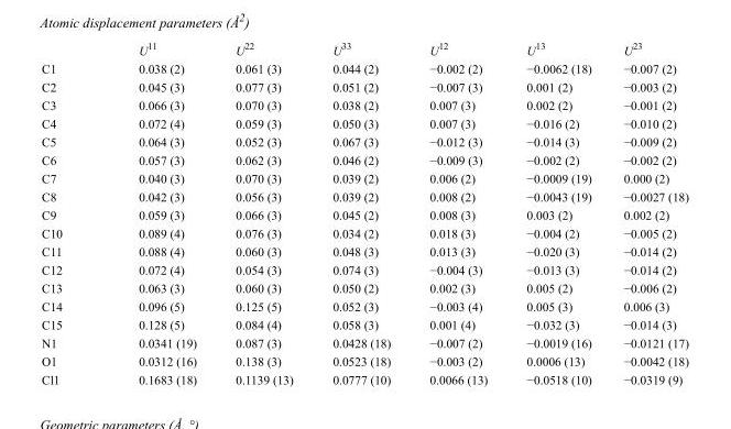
<table><thead><tr><td></td><td>U<sup>11</sup></td><td>U<sup>22</sup></td><td>U<sup>33</sup></td><td>U<sup>12</sup></td><td>U<sup>13</sup></td><td>U<sup>23</sup></td></tr></thead><tbody><tr><td>C1</td><td>0.038 (2)</td><td>0.061 (3)</td><td>0.044 (2)</td><td>−0.002 (2)</td><td>−0.0062 (18)</td><td>−0.007 (2)</td></tr><tr><td>C2</td><td>0.045 (3)</td><td>0.077 (3)</td><td>0.051 (2)</td><td>−0.007 (3)</td><td>0.001 (2)</td><td>−0.003 (2)</td></tr><tr><td>C3</td><td>0.066 (3)</td><td>0.070 (3)</td><td>0.038 (2)</td><td>0.007 (3)</td><td>0.002 (2)</td><td>−0.001 (2)</td></tr><tr><td>C4</td><td>0.072 (4)</td><td>0.059 (3)</td><td>0.050 (3)</td><td>0.007 (3)</td><td>−0.016 (2)</td><td>−0.010 (2)</td></tr><tr><td>C5</td><td>0.064 (3)</td><td>0.052 (3)</td><td>0.067 (3)</td><td>−0.012 (3)</td><td>−0.014 (3)</td><td>−0.009 (2)</td></tr><tr><td>C6</td><td>0.057 (3)</td><td>0.062 (3)</td><td>0.046 (2)</td><td>−0.009 (3)</td><td>−0.002 (2)</td><td>−0.002 (2)</td></tr><tr><td>C7</td><td>0.040 (3)</td><td>0.070 (3)</td><td>0.039 (2)</td><td>0.006 (2)</td><td>−0.0009 (19)</td><td>0.000 (2)</td></tr><tr><td>C8</td><td>0.042 (3)</td><td>0.056 (3)</td><td>0.039 (2)</td><td>0.008 (2)</td><td>−0.0043 (19)</td><td>−0.0027 (18)</td></tr><tr><td>C9</td><td>0.059 (3)</td><td>0.066 (3)</td><td>0.045 (2)</td><td>0.008 (3)</td><td>0.003 (2)</td><td>0.002 (2)</td></tr><tr><td>C10</td><td>0.089 (4)</td><td>0.076 (3)</td><td>0.034 (2)</td><td>0.018 (3)</td><td>−0.004 (2)</td><td>−0.005 (2)</td></tr><tr><td>C11</td><td>0.088 (4)</td><td>0.060 (3)</td><td>0.048 (3)</td><td>0.013 (3)</td><td>−0.020 (3)</td><td>−0.014 (2)</td></tr><tr><td>C12</td><td>0.072 (4)</td><td>0.054 (3)</td><td>0.074 (3)</td><td>−0.004 (3)</td><td>−0.013 (3)</td><td>−0.014 (2)</td></tr><tr><td>C13</td><td>0.063 (3)</td><td>0.060 (3)</td><td>0.050 (2)</td><td>0.002 (3)</td><td>0.005 (2)</td><td>−0.006 (2)</td></tr><tr><td>C14</td><td>0.096 (5)</td><td>0.125 (5)</td><td>0.052 (3)</td><td>−0.003 (4)</td><td>0.005 (3)</td><td>0.006 (3)</td></tr><tr><td>C15</td><td>0.128 (5)</td><td>0.084 (4)</td><td>0.058 (3)</td><td>0.001 (4)</td><td>−0.032 (3)</td><td>−0.014 (3)</td></tr><tr><td>N1</td><td>0.0341 (19)</td><td>0.087 (3)</td><td>0.0428 (18)</td><td>−0.007 (2)</td><td>−0.0019 (16)</td><td>−0.0121 (17)</td></tr><tr><td>O1</td><td>0.0312 (16)</td><td>0.138 (3)</td><td>0.0523 (18)</td><td>−0.003 (2)</td><td>0.0006 (13)</td><td>−0.0042 (18)</td></tr><tr><td>Cl1</td><td>0.1683 (18)</td><td>0.1139 (13)</td><td>0.0777 (10)</td><td>0.0066 (13)</td><td>−0.0518 (10)</td><td>−0.0319 (9)</td></tr></tbody></table>